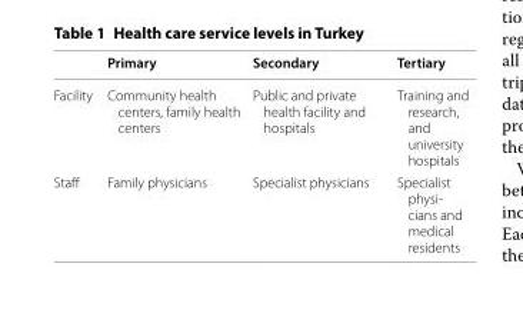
<table><thead><tr><td></td><td>Primary</td><td>Secondary</td><td>Tertiary</td></tr></thead><tbody><tr><td>Facility</td><td>Community health centers, family health centers</td><td>Public and private health facility and hospitals</td><td>Training and research, and university hospitals</td></tr><tr><td>Staff</td><td>Family physicians</td><td>Specialist physicians</td><td>Specialist physi- cians and medical residents</td></tr></tbody></table>